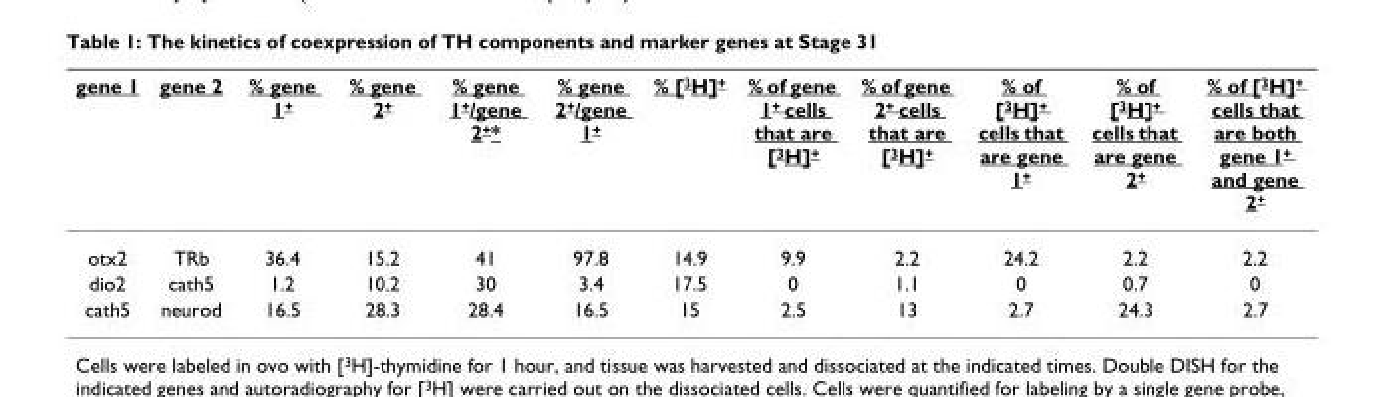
<table><thead><tr><td>gene 1</td><td>gene 2</td><td>% gene 1<sup>+</sup></td><td>% gene 2<sup>+</sup></td><td>% gene 1<sup>+</sup>/gene 2<sup>+</sup>*</td><td>% gene 2<sup>+</sup>/gene 1<sup>+</sup></td><td>% [<sup>3</sup>H]<sup>+</sup></td><td>% of gene 1<sup>+</sup> cells that are [<sup>3</sup>H]<sup>+</sup></td><td>% of gene 2<sup>+</sup> cells that are [<sup>3</sup>H]<sup>+</sup></td><td>% of [<sup>3</sup>H]<sup>+</sup> cells that are gene 1<sup>+</sup></td><td>% of [<sup>3</sup>H]<sup>+</sup> cells that are gene 2<sup>+</sup></td><td>% of [<sup>3</sup>H]<sup>+</sup> cells that are both gene 1<sup>+</sup> and gene 2<sup>+</sup></td></tr></thead><tbody><tr><td>otx2</td><td>TRb</td><td>36.4</td><td>15.2</td><td>41</td><td>97.8</td><td>14.9</td><td>9.9</td><td>2.2</td><td>24.2</td><td>2.2</td><td>2.2</td></tr><tr><td>dio2</td><td>cath5</td><td>1.2</td><td>10.2</td><td>30</td><td>3.4</td><td>17.5</td><td>0</td><td>1.1</td><td>0</td><td>0.7</td><td>0</td></tr><tr><td>cath5</td><td>neurod</td><td>16.5</td><td>28.3</td><td>28.4</td><td>16.5</td><td>15</td><td>2.5</td><td>13</td><td>2.7</td><td>24.3</td><td>2.7</td></tr></tbody></table>